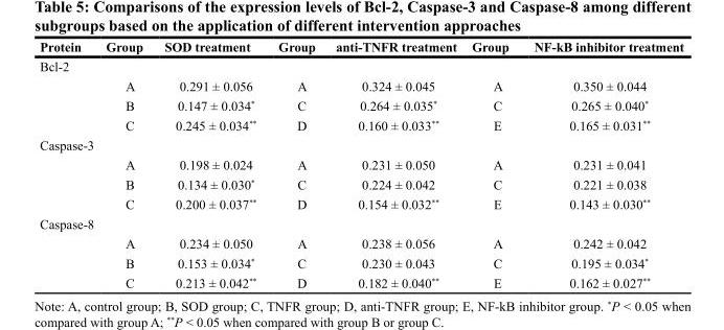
<table><thead><tr><td>Protein</td><td>Group</td><td>SOD treatment</td><td>Group</td><td>anti-TNFR treatment</td><td>Group</td><td>NF-kB inhibitor treatment</td></tr></thead><tbody><tr><td colspan="7">Bcl-2</td></tr><tr><td></td><td>A</td><td>0.291 ± 0.056</td><td>A</td><td>0.324 ± 0.045</td><td>A</td><td>0.350 ± 0.044</td></tr><tr><td></td><td>B</td><td>0.147 ± 0.034*</td><td>C</td><td>0.264 ± 0.035*</td><td>C</td><td>0.265 ± 0.040*</td></tr><tr><td></td><td>C</td><td>0.245 ± 0.034**</td><td>D</td><td>0.160 ± 0.033**</td><td>E</td><td>0.165 ± 0.031**</td></tr><tr><td colspan="7">Caspase-3</td></tr><tr><td></td><td>A</td><td>0.198 ± 0.024</td><td>A</td><td>0.231 ± 0.050</td><td>A</td><td>0.231 ± 0.041</td></tr><tr><td></td><td>B</td><td>0.134 ± 0.030*</td><td>C</td><td>0.224 ± 0.042</td><td>C</td><td>0.221 ± 0.038</td></tr><tr><td></td><td>C</td><td>0.200 ± 0.037**</td><td>D</td><td>0.154 ± 0.032**</td><td>E</td><td>0.143 ± 0.030**</td></tr><tr><td colspan="7">Caspase-8</td></tr><tr><td></td><td>A</td><td>0.234 ± 0.050</td><td>A</td><td>0.238 ± 0.056</td><td>A</td><td>0.242 ± 0.042</td></tr><tr><td></td><td>B</td><td>0.153 ± 0.034*</td><td>C</td><td>0.230 ± 0.043</td><td>C</td><td>0.195 ± 0.034*</td></tr><tr><td></td><td>C</td><td>0.213 ± 0.042**</td><td>D</td><td>0.182 ± 0.040**</td><td>E</td><td>0.162 ± 0.027**</td></tr></tbody></table>